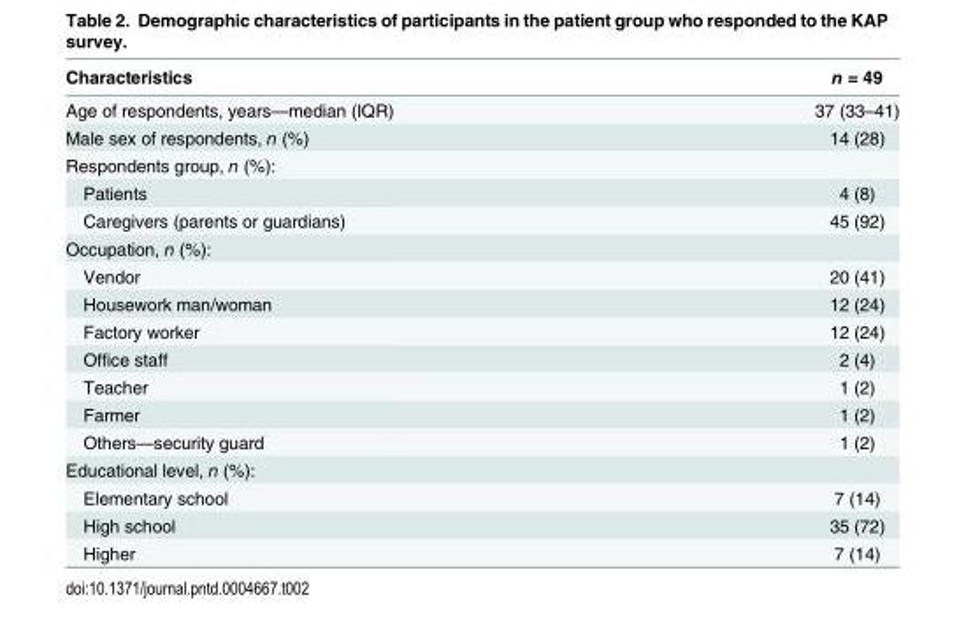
<table><thead><tr><td>Characteristics</td><td>n = 49</td></tr></thead><tbody><tr><td>Age of respondents, years—median (IQR)</td><td>37 (33–41)</td></tr><tr><td>Male sex of respondents, n (%)</td><td>14 (28)</td></tr><tr><td colspan="2">Respondents group, n (%):</td></tr><tr><td>Patients</td><td>4 (8)</td></tr><tr><td>Caregivers (parents or guardians)</td><td>45 (92)</td></tr><tr><td colspan="2">Occupation, n (%):</td></tr><tr><td>Vendor</td><td>20 (41)</td></tr><tr><td>Housework man/woman</td><td>12 (24)</td></tr><tr><td>Factory worker</td><td>12 (24)</td></tr><tr><td>Office staff</td><td>2 (4)</td></tr><tr><td>Teacher</td><td>1 (2)</td></tr><tr><td>Farmer</td><td>1 (2)</td></tr><tr><td>Others—security guard</td><td>1 (2)</td></tr><tr><td colspan="2">Educational level, n (%):</td></tr><tr><td>Elementary school</td><td>7 (14)</td></tr><tr><td>High school</td><td>35 (72)</td></tr><tr><td>Higher</td><td>7 (14)</td></tr></tbody></table>